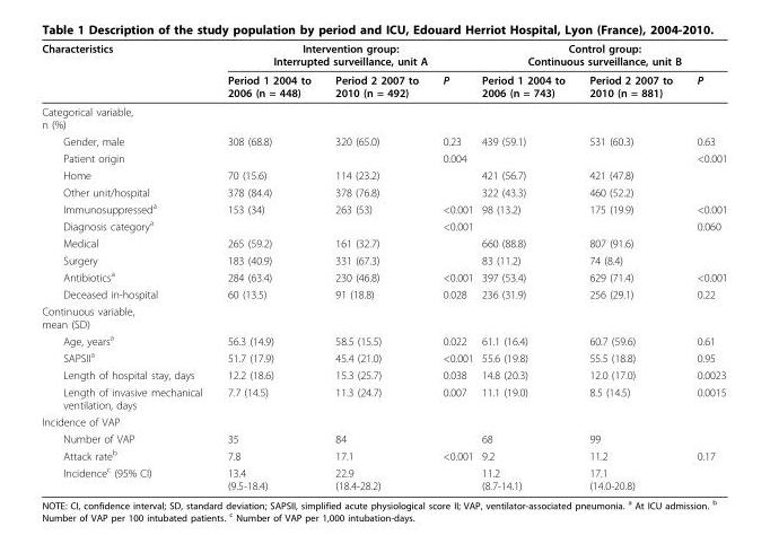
<table><thead><tr><td rowspan="2">Characteristics</td><td colspan="3">Intervention group: Interrupted surveillance, unit A</td><td colspan="3">Control group: Continuous surveillance, unit B</td></tr><tr><td>Period 1 2004 to 2006 (n = 448)</td><td>Period 2 2007 to 2010 (n = 492)</td><td>P</td><td>Period 1 2004 to 2006 (n = 743)</td><td>Period 2 2007 to 2010 (n = 881)</td><td>P</td></tr></thead><tbody><tr><td colspan="7">Categorical variable, n (%)</td></tr><tr><td>Gender, male</td><td>308 (68.8)</td><td>320 (65.0)</td><td>0.23</td><td>439 (59.1)</td><td>531 (60.3)</td><td>0.63</td></tr><tr><td>Patient origin</td><td></td><td></td><td>0.004</td><td></td><td></td><td>&lt;0.001</td></tr><tr><td>Home</td><td>70 (15.6)</td><td>114 (23.2)</td><td></td><td>421 (56.7)</td><td>421 (47.8)</td><td></td></tr><tr><td>Other unit/hospital</td><td>378 (84.4)</td><td>378 (76.8)</td><td></td><td>322 (43.3)</td><td>460 (52.2)</td><td></td></tr><tr><td>Immunosuppressed<sup>a</sup></td><td>153 (34)</td><td>263 (53)</td><td>&lt;0.001</td><td>98 (13.2)</td><td>175 (19.9)</td><td>&lt;0.001</td></tr><tr><td>Diagnosis category<sup>a</sup></td><td></td><td></td><td>&lt;0.001</td><td></td><td></td><td>0.060</td></tr><tr><td>Medical</td><td>265 (59.2)</td><td>161 (32.7)</td><td></td><td>660 (88.8)</td><td>807 (91.6)</td><td></td></tr><tr><td>Surgery</td><td>183 (40.9)</td><td>331 (67.3)</td><td></td><td>83 (11.2)</td><td>74 (8.4)</td><td></td></tr><tr><td>Antibiotics<sup>a</sup></td><td>284 (63.4)</td><td>230 (46.8)</td><td>&lt;0.001</td><td>397 (53.4)</td><td>629 (71.4)</td><td>&lt;0.001</td></tr><tr><td>Deceased in-hospital</td><td>60 (13.5)</td><td>91 (18.8)</td><td>0.028</td><td>236 (31.9)</td><td>256 (29.1)</td><td>0.22</td></tr><tr><td colspan="7">Continuous variable, mean (SD)</td></tr><tr><td>Age, years<sup>a</sup></td><td>56.3 (14.9)</td><td>58.5 (15.5)</td><td>0.022</td><td>61.1 (16.4)</td><td>60.7 (59.6)</td><td>0.61</td></tr><tr><td>SAPSII<sup>a</sup></td><td>51.7 (17.9)</td><td>45.4 (21.0)</td><td>&lt;0.001</td><td>55.6 (19.8)</td><td>55.5 (18.8)</td><td>0.95</td></tr><tr><td>Length of hospital stay, days</td><td>12.2 (18.6)</td><td>15.3 (25.7)</td><td>0.038</td><td>14.8 (20.3)</td><td>12.0 (17.0)</td><td>0.0023</td></tr><tr><td>Length of invasive mechanical ventilation, days</td><td>7.7 (14.5)</td><td>11.3 (24.7)</td><td>0.007</td><td>11.1 (19.0)</td><td>8.5 (14.5)</td><td>0.0015</td></tr><tr><td colspan="7">Incidence of VAP</td></tr><tr><td>Number of VAP</td><td>35</td><td>84</td><td></td><td>68</td><td>99</td><td></td></tr><tr><td>Attack rate<sup>b</sup></td><td>7.8</td><td>17.1</td><td>&lt;0.001</td><td>9.2</td><td>11.2</td><td>0.17</td></tr><tr><td>Incidence<sup>c</sup> (95% CI)</td><td>13.4 (9.5-18.4)</td><td>22.9 (18.4-28.2)</td><td></td><td>11.2 (8.7-14.1)</td><td>17.1 (14.0-20.8)</td><td></td></tr></tbody></table>